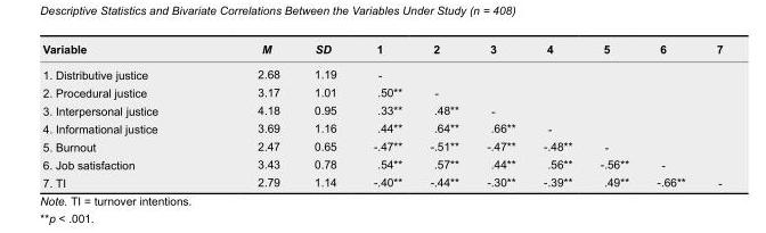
<table><thead><tr><td>Variable</td><td>M</td><td>SD</td><td>1</td><td>2</td><td>3</td><td>4</td><td>5</td><td>6</td><td>7</td></tr></thead><tbody><tr><td>1. Distributive justice</td><td>2.68</td><td>1.19</td><td>-</td><td></td><td></td><td></td><td></td><td></td><td></td></tr><tr><td>2. Procedural justice</td><td>3.17</td><td>1.01</td><td>.50**</td><td>-</td><td></td><td></td><td></td><td></td><td></td></tr><tr><td>3. Interpersonal justice</td><td>4.18</td><td>0.95</td><td>.33**</td><td>.48**</td><td>-</td><td></td><td></td><td></td><td></td></tr><tr><td>4. Informational justice</td><td>3.69</td><td>1.16</td><td>.44**</td><td>.64**</td><td>.66**</td><td>-</td><td></td><td></td><td></td></tr><tr><td>5. Burnout</td><td>2.47</td><td>0.65</td><td>-.47**</td><td>-.51**</td><td>-.47**</td><td>-.48**</td><td>-</td><td></td><td></td></tr><tr><td>6. Job satisfaction</td><td>3.43</td><td>0.78</td><td>.54**</td><td>.57**</td><td>.44**</td><td>.56**</td><td>-.56**</td><td>-</td><td></td></tr><tr><td>7. TI</td><td>2.79</td><td>1.14</td><td>-.40**</td><td>-.44**</td><td>-.30**</td><td>-.39**</td><td>.49**</td><td>-.66**</td><td>-</td></tr></tbody></table>